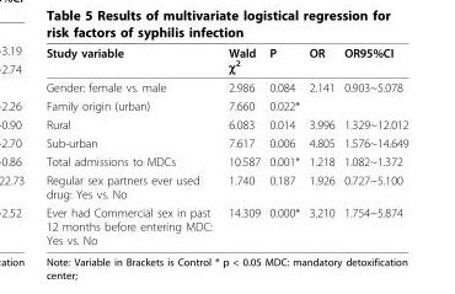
<table><thead><tr><td>Study variable</td><td>Wald χ<sup>2</sup></td><td>P</td><td>OR</td><td>OR95%CI</td></tr></thead><tbody><tr><td>Gender: female vs. male</td><td>2.986</td><td>0.084</td><td>2.141</td><td>0.903~5.078</td></tr><tr><td>Family origin (urban)</td><td>7.660</td><td>0.022*</td><td></td><td></td></tr><tr><td>Rural</td><td>6.083</td><td>0.014</td><td>3.996</td><td>1.329~12.012</td></tr><tr><td>Sub-urban</td><td>7.617</td><td>0.006</td><td>4.805</td><td>1.576~14.649</td></tr><tr><td>Total admissions to MDCs</td><td>10.587</td><td>0.001*</td><td>1.218</td><td>1.082~1.372</td></tr><tr><td>Regular sex partners ever used drug: Yes vs. No</td><td>1.740</td><td>0.187</td><td>1.926</td><td>0.727~5.100</td></tr><tr><td>Ever had Commercial sex in past 12 months before entering MDC: Yes vs. No</td><td>14.309</td><td>0.000*</td><td>3.210</td><td>1.754~5.874</td></tr></tbody></table>